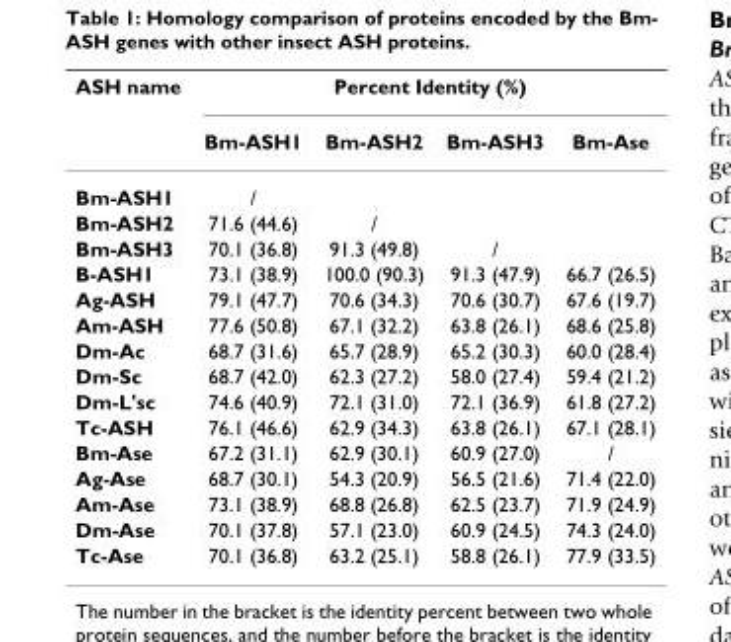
<table><thead><tr><td rowspan="2">ASH name</td><td colspan="4">Percent Identity (%)</td></tr><tr><td>Bm-ASH1</td><td>Bm-ASH2</td><td>Bm-ASH3</td><td>Bm-Ase</td></tr></thead><tbody><tr><td>Bm-ASH1</td><td>/</td><td></td><td></td><td></td></tr><tr><td>Bm-ASH2</td><td>71.6 (44.6)</td><td>/</td><td></td><td></td></tr><tr><td>Bm-ASH3</td><td>70.1 (36.8)</td><td>91.3 (49.8)</td><td>/</td><td></td></tr><tr><td>B-ASH1</td><td>73.1 (38.9)</td><td>100.0 (90.3)</td><td>91.3 (47.9)</td><td>66.7 (26.5)</td></tr><tr><td>Ag-ASH</td><td>79.1 (47.7)</td><td>70.6 (34.3)</td><td>70.6 (30.7)</td><td>67.6 (19.7)</td></tr><tr><td>Am-ASH</td><td>77.6 (50.8)</td><td>67.1 (32.2)</td><td>63.8 (26.1)</td><td>68.6 (25.8)</td></tr><tr><td>Dm-Ac</td><td>68.7 (31.6)</td><td>65.7 (28.9)</td><td>65.2 (30.3)</td><td>60.0 (28.4)</td></tr><tr><td>Dm-Sc</td><td>68.7 (42.0)</td><td>62.3 (27.2)</td><td>58.0 (27.4)</td><td>59.4 (21.2)</td></tr><tr><td>Dm-L&#x27;sc</td><td>74.6 (40.9)</td><td>72.1 (31.0)</td><td>72.1 (36.9)</td><td>61.8 (27.2)</td></tr><tr><td>Tc-ASH</td><td>76.1 (46.6)</td><td>62.9 (34.3)</td><td>63.8 (26.1)</td><td>67.1 (28.1)</td></tr><tr><td>Bm-Ase</td><td>67.2 (31.1)</td><td>62.9 (30.1)</td><td>60.9 (27.0)</td><td>/</td></tr><tr><td>Ag-Ase</td><td>68.7 (30.1)</td><td>54.3 (20.9)</td><td>56.5 (21.6)</td><td>71.4 (22.0)</td></tr><tr><td>Am-Ase</td><td>73.1 (38.9)</td><td>68.8 (26.8)</td><td>62.5 (23.7)</td><td>71.9 (24.9)</td></tr><tr><td>Dm-Ase</td><td>70.1 (37.8)</td><td>57.1 (23.0)</td><td>60.9 (24.5)</td><td>74.3 (24.0)</td></tr><tr><td>Tc-Ase</td><td>70.1 (36.8)</td><td>63.2 (25.1)</td><td>58.8 (26.1)</td><td>77.9 (33.5)</td></tr></tbody></table>